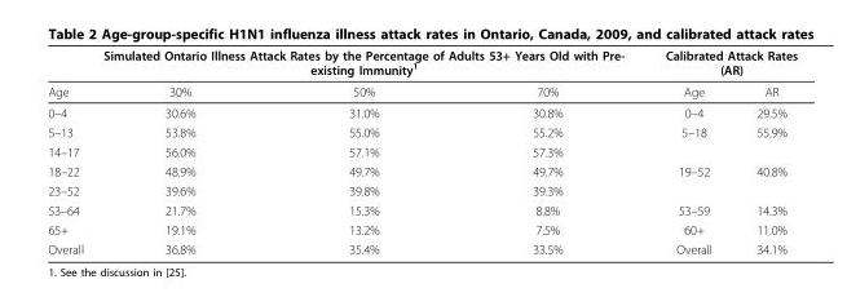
<table><thead><tr><td rowspan="2">Age</td><td colspan="3">Simulated Ontario Illness Attack Rates by the Percentage of Adults 53+ Years Old with Pre- existing Immunity<sup>1</sup></td><td colspan="2">Calibrated Attack Rates (AR)</td></tr><tr><td>30%</td><td>50%</td><td>70%</td><td>Age</td><td>AR</td></tr></thead><tbody><tr><td>0–4</td><td>30.6%</td><td>31.0%</td><td>30.8%</td><td>0–4</td><td>29.5%</td></tr><tr><td>5–13</td><td>53.8%</td><td>55.0%</td><td>55.2%</td><td rowspan="2">5–18</td><td rowspan="2">55.9%</td></tr><tr><td>14–17</td><td>56.0%</td><td>57.1%</td><td>57.3%</td></tr><tr><td>18–22</td><td>48.9%</td><td>49.7%</td><td>49.7%</td><td rowspan="2">19–52</td><td rowspan="2">40.8%</td></tr><tr><td>23–52</td><td>39.6%</td><td>39.8%</td><td>39.3%</td></tr><tr><td>53–64</td><td>21.7%</td><td>15.3%</td><td>8.8%</td><td>53–59</td><td>14.3%</td></tr><tr><td>65+</td><td>19.1%</td><td>13.2%</td><td>7.5%</td><td>60+</td><td>11.0%</td></tr><tr><td>Overall</td><td>36.8%</td><td>35.4%</td><td>33.5%</td><td>Overall</td><td>34.1%</td></tr></tbody></table>